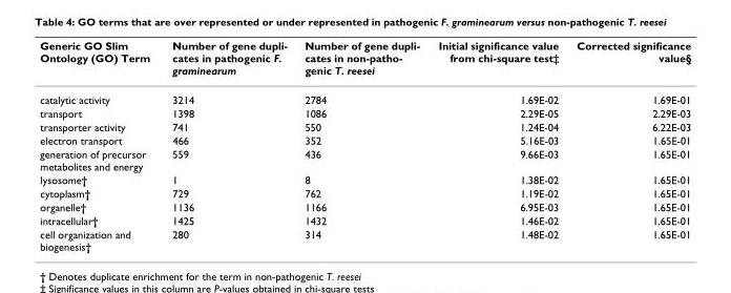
<table><thead><tr><td>Generic GO Slim Ontology (GO) Term</td><td>Number of gene dupli- cates in pathogenic F. graminearum</td><td>Number of gene dupli- cates in non-patho- genic T. reesei</td><td>Initial significance value from chi-square test‡</td><td>Corrected significance value§</td></tr></thead><tbody><tr><td>catalytic activity</td><td>3214</td><td>2784</td><td>1.69E-02</td><td>1.69E-01</td></tr><tr><td>transport</td><td>1398</td><td>1086</td><td>2.29E-05</td><td>2.29E-03</td></tr><tr><td>transporter activity</td><td>741</td><td>550</td><td>1.24E-04</td><td>6.22E-03</td></tr><tr><td>electron transport</td><td>466</td><td>352</td><td>5.16E-03</td><td>1.65E-01</td></tr><tr><td>generation of precursor metabolites and energy</td><td>559</td><td>436</td><td>9.66E-03</td><td>1.65E-01</td></tr><tr><td>lysosome†</td><td>1</td><td>8</td><td>1.38E-02</td><td>1.65E-01</td></tr><tr><td>cytoplasm†</td><td>729</td><td>762</td><td>1.19E-02</td><td>1.65E-01</td></tr><tr><td>organelle†</td><td>1136</td><td>1166</td><td>6.95E-03</td><td>1.65E-01</td></tr><tr><td>intracellular†</td><td>1425</td><td>1432</td><td>1.46E-02</td><td>1.65E-01</td></tr><tr><td>cell organization and biogenesis†</td><td>280</td><td>314</td><td>1.48E-02</td><td>1.65E-01</td></tr></tbody></table>